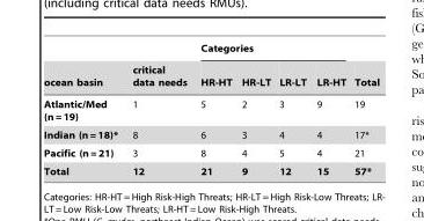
<table><thead><tr><td rowspan="2">ocean basin</td><td rowspan="2">critical data needs</td><td colspan="4">Categories</td><td rowspan="2">Total</td></tr><tr><td>HR-HT</td><td>HR-LT</td><td>LR-LT</td><td>LR-HT</td></tr></thead><tbody><tr><td>Atlantic/Med (n = 19)</td><td>1</td><td>5</td><td>2</td><td>3</td><td>9</td><td>19</td></tr><tr><td>Indian (n = 18)*</td><td>8</td><td>6</td><td>3</td><td>4</td><td>4</td><td>17*</td></tr><tr><td>Pacific (n = 21)</td><td>3</td><td>8</td><td>4</td><td>5</td><td>4</td><td>21</td></tr><tr><td>Total</td><td>12</td><td>21</td><td>9</td><td>12</td><td>15</td><td>57*</td></tr></tbody></table>